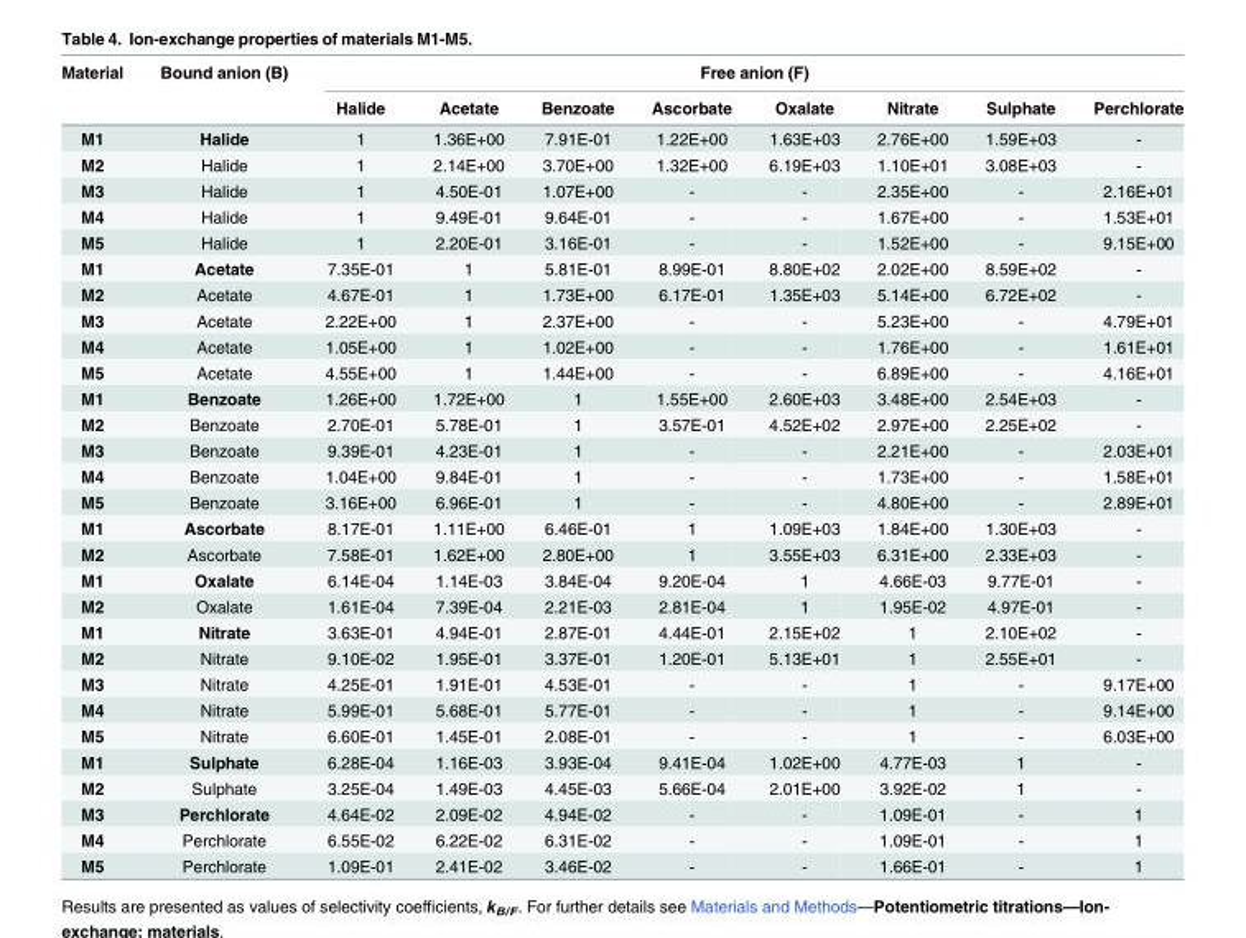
<table><thead><tr><td rowspan="2">Material</td><td rowspan="2">Bound anion (B)</td><td colspan="8">Free anion (F)</td></tr><tr><td>Halide</td><td>Acetate</td><td>Benzoate</td><td>Ascorbate</td><td>Oxalate</td><td>Nitrate</td><td>Sulphate</td><td>Perchlorate</td></tr></thead><tbody><tr><td>M1</td><td>Halide</td><td>1</td><td>1.36E+00</td><td>7.91E-01</td><td>1.22E+00</td><td>1.63E+03</td><td>2.76E+00</td><td>1.59E+03</td><td>-</td></tr><tr><td>M2</td><td>Halide</td><td>1</td><td>2.14E+00</td><td>3.70E+00</td><td>1.32E+00</td><td>6.19E+03</td><td>1.10E+01</td><td>3.08E+03</td><td>-</td></tr><tr><td>M3</td><td>Halide</td><td>1</td><td>4.50E-01</td><td>1.07E+00</td><td>-</td><td>-</td><td>2.35E+00</td><td>-</td><td>2.16E+01</td></tr><tr><td>M4</td><td>Halide</td><td>1</td><td>9.49E-01</td><td>9.64E-01</td><td>-</td><td>-</td><td>1.67E+00</td><td>-</td><td>1.53E+01</td></tr><tr><td>M5</td><td>Halide</td><td>1</td><td>2.20E-01</td><td>3.16E-01</td><td>-</td><td>-</td><td>1.52E+00</td><td>-</td><td>9.15E+00</td></tr><tr><td>M1</td><td>Acetate</td><td>7.35E-01</td><td>1</td><td>5.81E-01</td><td>8.99E-01</td><td>8.80E+02</td><td>2.02E+00</td><td>8.59E+02</td><td>-</td></tr><tr><td>M2</td><td>Acetate</td><td>4.67E-01</td><td>1</td><td>1.73E+00</td><td>6.17E-01</td><td>1.35E+03</td><td>5.14E+00</td><td>6.72E+02</td><td>-</td></tr><tr><td>M3</td><td>Acetate</td><td>2.22E+00</td><td>1</td><td>2.37E+00</td><td>-</td><td>-</td><td>5.23E+00</td><td>-</td><td>4.79E+01</td></tr><tr><td>M4</td><td>Acetate</td><td>1.05E+00</td><td>1</td><td>1.02E+00</td><td>-</td><td>-</td><td>1.76E+00</td><td>-</td><td>1.61E+01</td></tr><tr><td>M5</td><td>Acetate</td><td>4.55E+00</td><td>1</td><td>1.44E+00</td><td>-</td><td>-</td><td>6.89E+00</td><td>-</td><td>4.16E+01</td></tr><tr><td>M1</td><td>Benzoate</td><td>1.26E+00</td><td>1.72E+00</td><td>1</td><td>1.55E+00</td><td>2.60E+03</td><td>3.48E+00</td><td>2.54E+03</td><td>-</td></tr><tr><td>M2</td><td>Benzoate</td><td>2.70E-01</td><td>5.78E-01</td><td>1</td><td>3.57E-01</td><td>4.52E+02</td><td>2.97E+00</td><td>2.25E+02</td><td>-</td></tr><tr><td>M3</td><td>Benzoate</td><td>9.39E-01</td><td>4.23E-01</td><td>1</td><td>-</td><td>-</td><td>2.21E+00</td><td>-</td><td>2.03E+01</td></tr><tr><td>M4</td><td>Benzoate</td><td>1.04E+00</td><td>9.84E-01</td><td>1</td><td>-</td><td>-</td><td>1.73E+00</td><td>-</td><td>1.58E+01</td></tr><tr><td>M5</td><td>Benzoate</td><td>3.16E+00</td><td>6.96E-01</td><td>1</td><td>-</td><td>-</td><td>4.80E+00</td><td>-</td><td>2.89E+01</td></tr><tr><td>M1</td><td>Ascorbate</td><td>8.17E-01</td><td>1.11E+00</td><td>6.46E-01</td><td>1</td><td>1.09E+03</td><td>1.84E+00</td><td>1.30E+03</td><td>-</td></tr><tr><td>M2</td><td>Ascorbate</td><td>7.58E-01</td><td>1.62E+00</td><td>2.80E+00</td><td>1</td><td>3.55E+03</td><td>6.31E+00</td><td>2.33E+03</td><td>-</td></tr><tr><td>M1</td><td>Oxalate</td><td>6.14E-04</td><td>1.14E-03</td><td>3.84E-04</td><td>9.20E-04</td><td>1</td><td>4.66E-03</td><td>9.77E-01</td><td>-</td></tr><tr><td>M2</td><td>Oxalate</td><td>1.61E-04</td><td>7.39E-04</td><td>2.21E-03</td><td>2.81E-04</td><td>1</td><td>1.95E-02</td><td>4.97E-01</td><td>-</td></tr><tr><td>M1</td><td>Nitrate</td><td>3.63E-01</td><td>4.94E-01</td><td>2.87E-01</td><td>4.44E-01</td><td>2.15E+02</td><td>1</td><td>2.10E+02</td><td>-</td></tr><tr><td>M2</td><td>Nitrate</td><td>9.10E-02</td><td>1.95E-01</td><td>3.37E-01</td><td>1.20E-01</td><td>5.13E+01</td><td>1</td><td>2.55E+01</td><td>-</td></tr><tr><td>M3</td><td>Nitrate</td><td>4.25E-01</td><td>1.91E-01</td><td>4.53E-01</td><td>-</td><td>-</td><td>1</td><td>-</td><td>9.17E+00</td></tr><tr><td>M4</td><td>Nitrate</td><td>5.99E-01</td><td>5.68E-01</td><td>5.77E-01</td><td>-</td><td>-</td><td>1</td><td>-</td><td>9.14E+00</td></tr><tr><td>M5</td><td>Nitrate</td><td>6.60E-01</td><td>1.45E-01</td><td>2.08E-01</td><td>-</td><td>-</td><td>1</td><td>-</td><td>6.03E+00</td></tr><tr><td>M1</td><td>Sulphate</td><td>6.28E-04</td><td>1.16E-03</td><td>3.93E-04</td><td>9.41E-04</td><td>1.02E+00</td><td>4.77E-03</td><td>1</td><td>-</td></tr><tr><td>M2</td><td>Sulphate</td><td>3.25E-04</td><td>1.49E-03</td><td>4.45E-03</td><td>5.66E-04</td><td>2.01E+00</td><td>3.92E-02</td><td>1</td><td>-</td></tr><tr><td>M3</td><td>Perchlorate</td><td>4.64E-02</td><td>2.09E-02</td><td>4.94E-02</td><td>-</td><td>-</td><td>1.09E-01</td><td>-</td><td>1</td></tr><tr><td>M4</td><td>Perchlorate</td><td>6.55E-02</td><td>6.22E-02</td><td>6.31E-02</td><td>-</td><td>-</td><td>1.09E-01</td><td>-</td><td>1</td></tr><tr><td>M5</td><td>Perchlorate</td><td>1.09E-01</td><td>2.41E-02</td><td>3.46E-02</td><td>-</td><td>-</td><td>1.66E-01</td><td>-</td><td>1</td></tr></tbody></table>